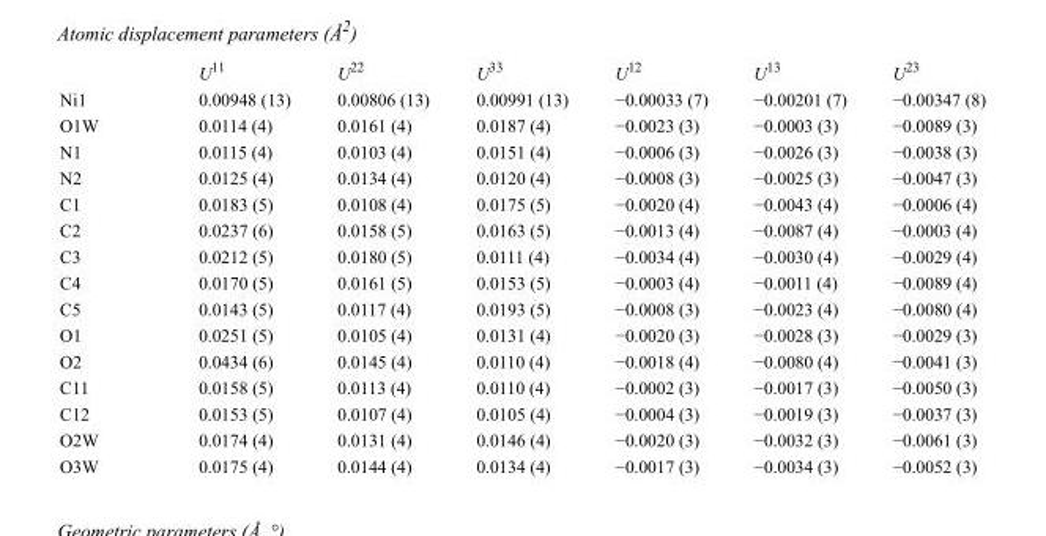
<table><thead><tr><td></td><td>U<sup>11</sup></td><td>U<sup>22</sup></td><td>U<sup>33</sup></td><td>U<sup>12</sup></td><td>U<sup>13</sup></td><td>U<sup>23</sup></td></tr></thead><tbody><tr><td>Ni1</td><td>0.00948 (13)</td><td>0.00806 (13)</td><td>0.00991 (13)</td><td>−0.00033 (7)</td><td>−0.00201 (7)</td><td>−0.00347 (8)</td></tr><tr><td>O1W</td><td>0.0114 (4)</td><td>0.0161 (4)</td><td>0.0187 (4)</td><td>−0.0023 (3)</td><td>−0.0003 (3)</td><td>−0.0089 (3)</td></tr><tr><td>N1</td><td>0.0115 (4)</td><td>0.0103 (4)</td><td>0.0151 (4)</td><td>−0.0006 (3)</td><td>−0.0026 (3)</td><td>−0.0038 (3)</td></tr><tr><td>N2</td><td>0.0125 (4)</td><td>0.0134 (4)</td><td>0.0120 (4)</td><td>−0.0008 (3)</td><td>−0.0025 (3)</td><td>−0.0047 (3)</td></tr><tr><td>C1</td><td>0.0183 (5)</td><td>0.0108 (4)</td><td>0.0175 (5)</td><td>−0.0020 (4)</td><td>−0.0043 (4)</td><td>−0.0006 (4)</td></tr><tr><td>C2</td><td>0.0237 (6)</td><td>0.0158 (5)</td><td>0.0163 (5)</td><td>−0.0013 (4)</td><td>−0.0087 (4)</td><td>−0.0003 (4)</td></tr><tr><td>C3</td><td>0.0212 (5)</td><td>0.0180 (5)</td><td>0.0111 (4)</td><td>−0.0034 (4)</td><td>−0.0030 (4)</td><td>−0.0029 (4)</td></tr><tr><td>C4</td><td>0.0170 (5)</td><td>0.0161 (5)</td><td>0.0153 (5)</td><td>−0.0003 (4)</td><td>−0.0011 (4)</td><td>−0.0089 (4)</td></tr><tr><td>C5</td><td>0.0143 (5)</td><td>0.0117 (4)</td><td>0.0193 (5)</td><td>−0.0008 (3)</td><td>−0.0023 (4)</td><td>−0.0080 (4)</td></tr><tr><td>O1</td><td>0.0251 (5)</td><td>0.0105 (4)</td><td>0.0131 (4)</td><td>−0.0020 (3)</td><td>−0.0028 (3)</td><td>−0.0029 (3)</td></tr><tr><td>O2</td><td>0.0434 (6)</td><td>0.0145 (4)</td><td>0.0110 (4)</td><td>−0.0018 (4)</td><td>−0.0080 (4)</td><td>−0.0041 (3)</td></tr><tr><td>C11</td><td>0.0158 (5)</td><td>0.0113 (4)</td><td>0.0110 (4)</td><td>−0.0002 (3)</td><td>−0.0017 (3)</td><td>−0.0050 (3)</td></tr><tr><td>C12</td><td>0.0153 (5)</td><td>0.0107 (4)</td><td>0.0105 (4)</td><td>−0.0004 (3)</td><td>−0.0019 (3)</td><td>−0.0037 (3)</td></tr><tr><td>O2W</td><td>0.0174 (4)</td><td>0.0131 (4)</td><td>0.0146 (4)</td><td>−0.0020 (3)</td><td>−0.0032 (3)</td><td>−0.0061 (3)</td></tr><tr><td>O3W</td><td>0.0175 (4)</td><td>0.0144 (4)</td><td>0.0134 (4)</td><td>−0.0017 (3)</td><td>−0.0034 (3)</td><td>−0.0052 (3)</td></tr></tbody></table>